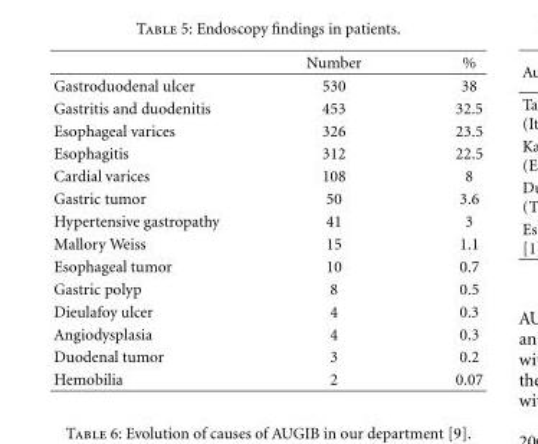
<table><thead><tr><td></td><td>Number</td><td>%</td></tr></thead><tbody><tr><td>Gastroduodenal ulcer</td><td>530</td><td>38</td></tr><tr><td>Gastritis and duodenitis</td><td>453</td><td>32.5</td></tr><tr><td>Esophageal varices</td><td>326</td><td>23.5</td></tr><tr><td>Esophagitis</td><td>312</td><td>22.5</td></tr><tr><td>Cardial varices</td><td>108</td><td>8</td></tr><tr><td>Gastric tumor</td><td>50</td><td>3.6</td></tr><tr><td>Hypertensive gastropathy</td><td>41</td><td>3</td></tr><tr><td>Mallory Weiss</td><td>15</td><td>1.1</td></tr><tr><td>Esophageal tumor</td><td>10</td><td>0.7</td></tr><tr><td>Gastric polyp</td><td>8</td><td>0.5</td></tr><tr><td>Dieulafoy ulcer</td><td>4</td><td>0.3</td></tr><tr><td>Angiodysplasia</td><td>4</td><td>0.3</td></tr><tr><td>Duodenal tumor</td><td>3</td><td>0.2</td></tr><tr><td>Hemobilia</td><td>2</td><td>0.07</td></tr></tbody></table>